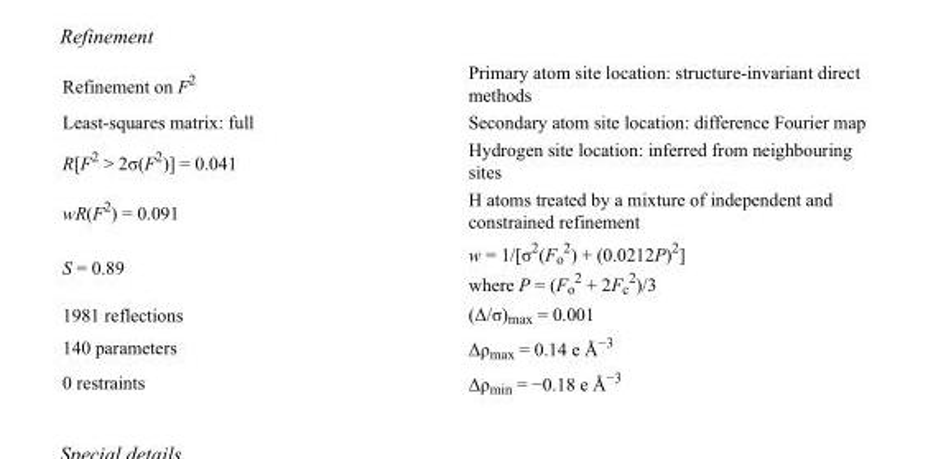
<table><tbody><tr><td>Refinement on F<sup>2</sup></td><td>Primary atom site location: structure-invariant direct methods</td></tr><tr><td>Least-squares matrix: full</td><td>Secondary atom site location: difference Fourier map</td></tr><tr><td>R[F<sup>2</sup> &gt; 2σ(F<sup>2</sup>)] = 0.041</td><td>Hydrogen site location: inferred from neighbouring sites</td></tr><tr><td>wR(F<sup>2</sup>) = 0.091</td><td>H atoms treated by a mixture of independent and constrained refinement</td></tr><tr><td>S = 0.89</td><td>w = 1/[σ<sup>2</sup>(F<sub>o</sub> <sup>2</sup>) + (0.0212P)<sup>2</sup>] where P = (F<sub>o</sub> <sup>2</sup> + 2F<sub>c</sub> <sup>2</sup>)/3</td></tr><tr><td>1981 reflections</td><td>(Δ/σ)<sub>max</sub> = 0.001</td></tr><tr><td>140 parameters</td><td>Δρ<sub>max</sub> = 0.14 e Å<sup>−3</sup></td></tr><tr><td>0 restraints</td><td>Δρ<sub>min</sub> = −0.18 e Å<sup>−3</sup></td></tr></tbody></table>